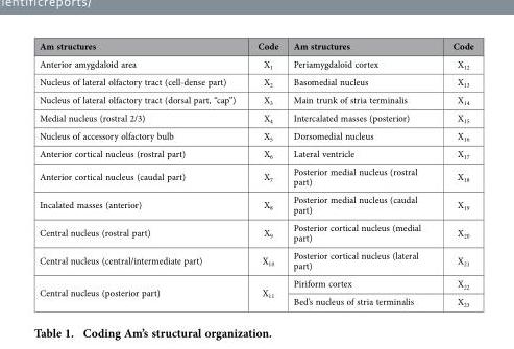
<table><thead><tr><td>Am structures</td><td>Code</td><td>Am structures</td><td>Code</td></tr></thead><tbody><tr><td>Anterior amygdaloid area</td><td>X<sub>1</sub></td><td>Periamygdaloid cortex</td><td>X<sub>12</sub></td></tr><tr><td>Nucleus of lateral olfactory tract (cell-dense part)</td><td>X<sub>2</sub></td><td>Basomedial nucleus</td><td>X<sub>13</sub></td></tr><tr><td>Nucleus of lateral olfactory tract (dorsal part, “cap”)</td><td>X<sub>3</sub></td><td>Main trunk of stria terminalis</td><td>X<sub>14</sub></td></tr><tr><td>Medial nucleus (rostral 2/3)</td><td>X<sub>4</sub></td><td>Intercalated masses (posterior)</td><td>X<sub>15</sub></td></tr><tr><td>Nucleus of accessory olfactory bulb</td><td>X<sub>5</sub></td><td>Dorsomedial nucleus</td><td>X<sub>16</sub></td></tr><tr><td>Anterior cortical nucleus (rostral part)</td><td>X<sub>6</sub></td><td>Lateral ventricle</td><td>X<sub>17</sub></td></tr><tr><td>Anterior cortical nucleus (caudal part)</td><td>X<sub>7</sub></td><td>Posterior medial nucleus (rostral part)</td><td>X<sub>18</sub></td></tr><tr><td>Incalated masses (anterior)</td><td>X<sub>8</sub></td><td>Posterior medial nucleus (caudal part)</td><td>X<sub>19</sub></td></tr><tr><td>Central nucleus (rostral part)</td><td>X<sub>9</sub></td><td>Posterior cortical nucleus (medial part)</td><td>X<sub>20</sub></td></tr><tr><td>Central nucleus (central/intermediate part)</td><td>X<sub>10</sub></td><td>Posterior cortical nucleus (lateral part)</td><td>X<sub>21</sub></td></tr><tr><td rowspan="2">Central nucleus (posterior part)</td><td rowspan="2">X<sub>11</sub></td><td>Piriform cortex</td><td>X<sub>22</sub></td></tr><tr><td>Bed’s nucleus of stria terminalis</td><td>X<sub>23</sub></td></tr></tbody></table>